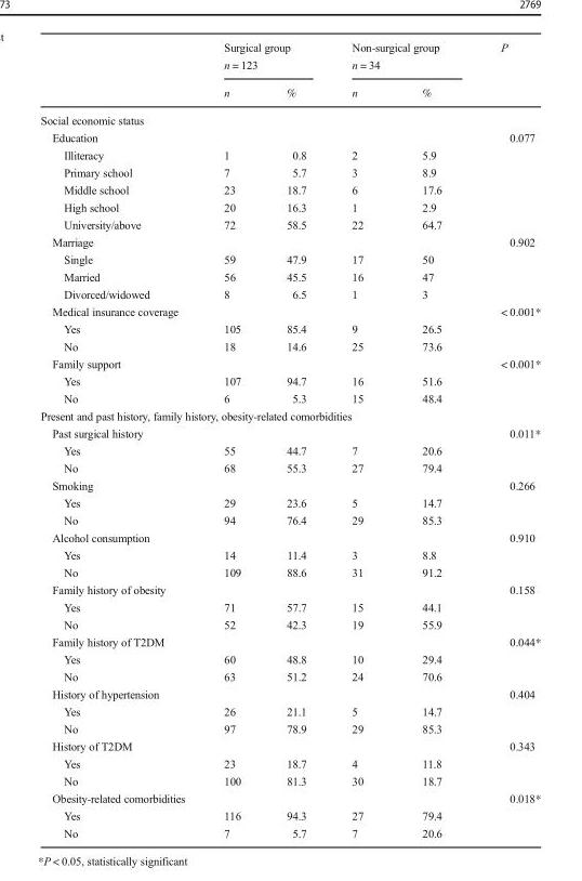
<table><thead><tr><td rowspan="2"></td><td colspan="2">Surgical group n = 123</td><td colspan="2">Non-surgical group n = 34</td><td rowspan="2">P</td></tr><tr><td>n</td><td>%</td><td>n</td><td>%</td></tr></thead><tbody><tr><td colspan="6">Social economic status</td></tr><tr><td>Education</td><td></td><td></td><td></td><td></td><td>0.077</td></tr><tr><td>Illiteracy</td><td>1</td><td>0.8</td><td>2</td><td>5.9</td><td></td></tr><tr><td>Primary school</td><td>7</td><td>5.7</td><td>3</td><td>8.9</td><td></td></tr><tr><td>Middle school</td><td>23</td><td>18.7</td><td>6</td><td>17.6</td><td></td></tr><tr><td>High school</td><td>20</td><td>16.3</td><td>1</td><td>2.9</td><td></td></tr><tr><td>University/above</td><td>72</td><td>58.5</td><td>22</td><td>64.7</td><td></td></tr><tr><td>Marriage</td><td></td><td></td><td></td><td></td><td>0.902</td></tr><tr><td>Single</td><td>59</td><td>47.9</td><td>17</td><td>50</td><td></td></tr><tr><td>Married</td><td>56</td><td>45.5</td><td>16</td><td>47</td><td></td></tr><tr><td>Divorced/widowed</td><td>8</td><td>6.5</td><td>1</td><td>3</td><td></td></tr><tr><td>Medical insurance coverage</td><td></td><td></td><td></td><td></td><td>&lt; 0.001*</td></tr><tr><td>Yes</td><td>105</td><td>85.4</td><td>9</td><td>26.5</td><td></td></tr><tr><td>No</td><td>18</td><td>14.6</td><td>25</td><td>73.6</td><td></td></tr><tr><td>Family support</td><td></td><td></td><td></td><td></td><td>&lt; 0.001*</td></tr><tr><td>Yes</td><td>107</td><td>94.7</td><td>16</td><td>51.6</td><td></td></tr><tr><td>No</td><td>6</td><td>5.3</td><td>15</td><td>48.4</td><td></td></tr><tr><td colspan="6">Present and past history, family history, obesity-related comorbidities</td></tr><tr><td>Past surgical history</td><td></td><td></td><td></td><td></td><td>0.011*</td></tr><tr><td>Yes</td><td>55</td><td>44.7</td><td>7</td><td>20.6</td><td></td></tr><tr><td>No</td><td>68</td><td>55.3</td><td>27</td><td>79.4</td><td></td></tr><tr><td>Smoking</td><td></td><td></td><td></td><td></td><td>0.266</td></tr><tr><td>Yes</td><td>29</td><td>23.6</td><td>5</td><td>14.7</td><td></td></tr><tr><td>No</td><td>94</td><td>76.4</td><td>29</td><td>85.3</td><td></td></tr><tr><td>Alcohol consumption</td><td></td><td></td><td></td><td></td><td>0.910</td></tr><tr><td>Yes</td><td>14</td><td>11.4</td><td>3</td><td>8.8</td><td></td></tr><tr><td>No</td><td>109</td><td>88.6</td><td>31</td><td>91.2</td><td></td></tr><tr><td>Family history of obesity</td><td></td><td></td><td></td><td></td><td>0.158</td></tr><tr><td>Yes</td><td>71</td><td>57.7</td><td>15</td><td>44.1</td><td></td></tr><tr><td>No</td><td>52</td><td>42.3</td><td>19</td><td>55.9</td><td></td></tr><tr><td>Family history of T2DM</td><td></td><td></td><td></td><td></td><td>0.044*</td></tr><tr><td>Yes</td><td>60</td><td>48.8</td><td>10</td><td>29.4</td><td></td></tr><tr><td>No</td><td>63</td><td>51.2</td><td>24</td><td>70.6</td><td></td></tr><tr><td>History of hypertension</td><td></td><td></td><td></td><td></td><td>0.404</td></tr><tr><td>Yes</td><td>26</td><td>21.1</td><td>5</td><td>14.7</td><td></td></tr><tr><td>No</td><td>97</td><td>78.9</td><td>29</td><td>85.3</td><td></td></tr><tr><td>History of T2DM</td><td></td><td></td><td></td><td></td><td>0.343</td></tr><tr><td>Yes</td><td>23</td><td>18.7</td><td>4</td><td>11.8</td><td></td></tr><tr><td>No</td><td>100</td><td>81.3</td><td>30</td><td>18.7</td><td></td></tr><tr><td>Obesity-related comorbidities</td><td></td><td></td><td></td><td></td><td>0.018*</td></tr><tr><td>Yes</td><td>116</td><td>94.3</td><td>27</td><td>79.4</td><td></td></tr><tr><td>No</td><td>7</td><td>5.7</td><td>7</td><td>20.6</td><td></td></tr></tbody></table>